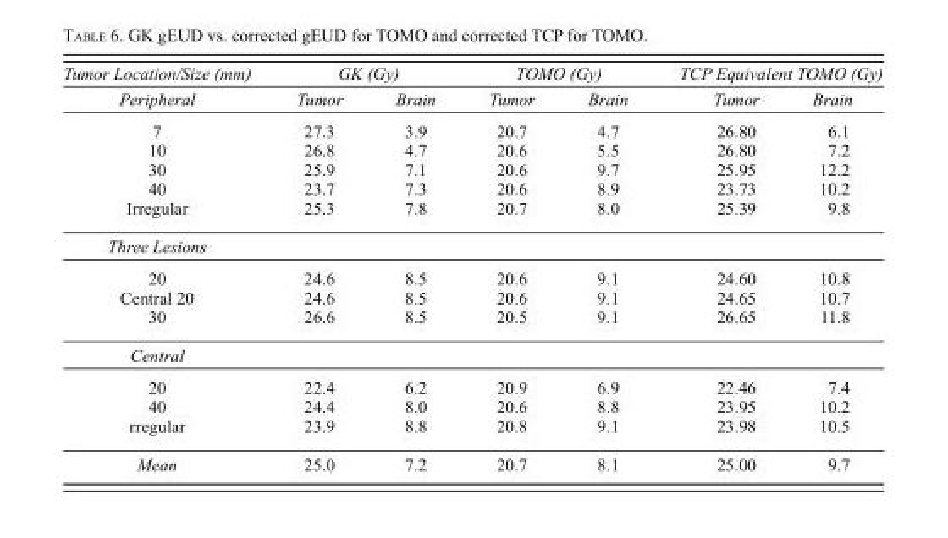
<table><thead><tr><td rowspan="2">Tumor Location/Size (mm) Peripheral</td><td colspan="2">GK (Gy)</td><td colspan="2">TOMO (Gy)</td><td colspan="2">TCP Equivalent TOMO (Gy)</td></tr><tr><td>Tumor</td><td>Brain</td><td>Tumor</td><td>Brain</td><td>Tumor</td><td>Brain</td></tr></thead><tbody><tr><td>7</td><td>27.3</td><td>3.9</td><td>20.7</td><td>4.7</td><td>26.80</td><td>6.1</td></tr><tr><td>10</td><td>26.8</td><td>4.7</td><td>20.6</td><td>5.5</td><td>26.80</td><td>7.2</td></tr><tr><td>30</td><td>25.9</td><td>7.1</td><td>20.6</td><td>9.7</td><td>25.95</td><td>12.2</td></tr><tr><td>40</td><td>23.7</td><td>7.3</td><td>20.6</td><td>8.9</td><td>23.73</td><td>10.2</td></tr><tr><td>Irregular</td><td>25.3</td><td>7.8</td><td>20.7</td><td>8.0</td><td>25.39</td><td>9.8</td></tr><tr><td colspan="7">Three Lesions</td></tr><tr><td>20</td><td>24.6</td><td>8.5</td><td>20.6</td><td>9.1</td><td>24.60</td><td>10.8</td></tr><tr><td>Central 20</td><td>24.6</td><td>8.5</td><td>20.6</td><td>9.1</td><td>24.65</td><td>10.7</td></tr><tr><td>30</td><td>26.6</td><td>8.5</td><td>20.5</td><td>9.1</td><td>26.65</td><td>11.8</td></tr><tr><td colspan="7">Central</td></tr><tr><td>20</td><td>22.4</td><td>6.2</td><td>20.9</td><td>6.9</td><td>22.46</td><td>7.4</td></tr><tr><td>40</td><td>24.4</td><td>8.0</td><td>20.6</td><td>8.8</td><td>23.95</td><td>10.2</td></tr><tr><td>rregular</td><td>23.9</td><td>8.8</td><td>20.8</td><td>9.1</td><td>23.98</td><td>10.5</td></tr><tr><td>Mean</td><td>25.0</td><td>7.2</td><td>20.7</td><td>8.1</td><td>25.00</td><td>9.7</td></tr></tbody></table>